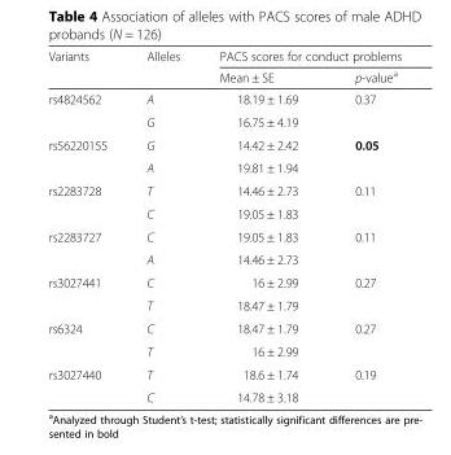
<table><thead><tr><td rowspan="2">Variants</td><td rowspan="2">Alleles</td><td colspan="2">PACS scores for conduct problems</td></tr><tr><td>Mean ± SE</td><td>p-value<sup>a</sup></td></tr></thead><tbody><tr><td rowspan="2">rs4824562</td><td>A</td><td>18.19 ± 1.69</td><td>0.37</td></tr><tr><td>G</td><td>16.75 ± 4.19</td><td></td></tr><tr><td rowspan="2">rs56220155</td><td>G</td><td>14.42 ± 2.42</td><td>0.05</td></tr><tr><td>A</td><td>19.81 ± 1.94</td><td></td></tr><tr><td rowspan="2">rs2283728</td><td>T</td><td>14.46 ± 2.73</td><td>0.11</td></tr><tr><td>C</td><td>19.05 ± 1.83</td><td></td></tr><tr><td rowspan="2">rs2283727</td><td>C</td><td>19.05 ± 1.83</td><td>0.11</td></tr><tr><td>A</td><td>14.46 ± 2.73</td><td></td></tr><tr><td rowspan="2">rs3027441</td><td>C</td><td>16 ± 2.99</td><td>0.27</td></tr><tr><td>T</td><td>18.47 ± 1.79</td><td></td></tr><tr><td rowspan="2">rs6324</td><td>C</td><td>18.47 ± 1.79</td><td>0.27</td></tr><tr><td>T</td><td>16 ± 2.99</td><td></td></tr><tr><td rowspan="2">rs3027440</td><td>T</td><td>18.6 ± 1.74</td><td>0.19</td></tr><tr><td>C</td><td>14.78 ± 3.18</td><td></td></tr></tbody></table>